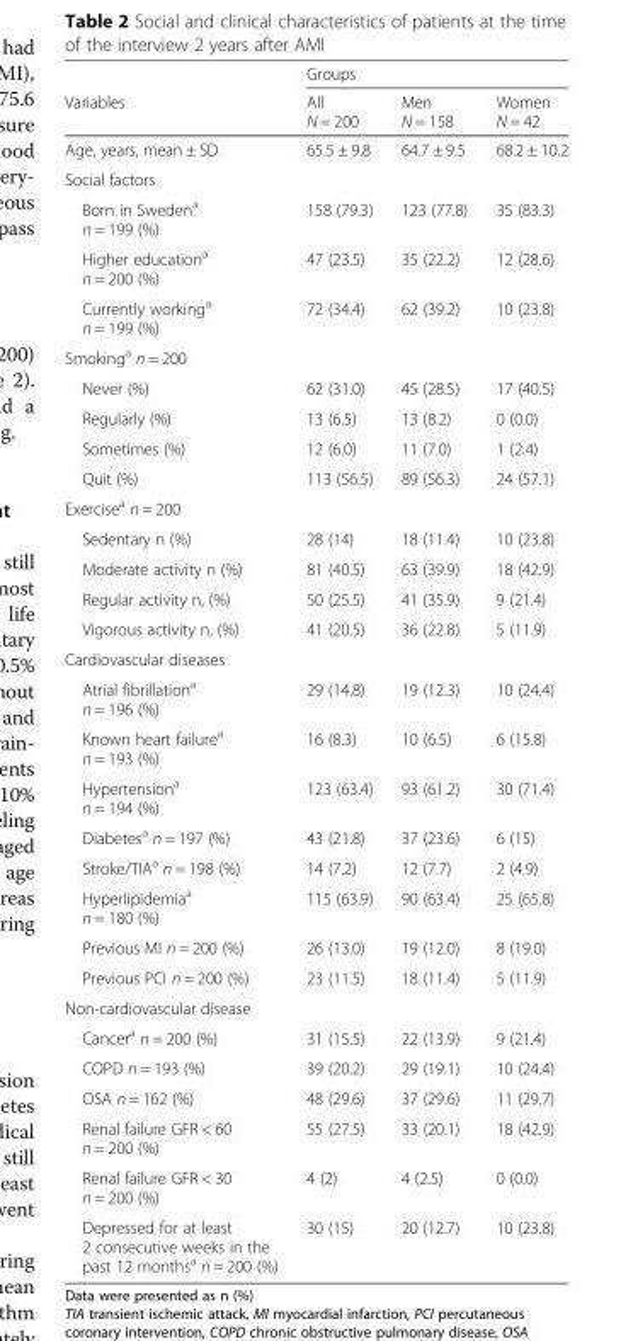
<table><thead><tr><td rowspan="2">Variables</td><td colspan="3">Groups</td></tr><tr><td>All N = 200</td><td>Men N = 158</td><td>Women N = 42</td></tr></thead><tbody><tr><td>Age, years, mean ± SD</td><td>65.5 ± 9.8</td><td>64.7 ± 9.5</td><td>68.2 ± 10.2</td></tr><tr><td colspan="4">Social factors</td></tr><tr><td>Born in Sweden<sup>a</sup> n = 199 (%)</td><td>158 (79.3)</td><td>123 (77.8)</td><td>35 (83.3)</td></tr><tr><td>Higher education<sup>a</sup> n = 200 (%)</td><td>47 (23.5)</td><td>35 (22.2)</td><td>12 (28.6)</td></tr><tr><td>Currently working<sup>a</sup> n = 199 (%)</td><td>72 (34.4)</td><td>62 (39.2)</td><td>10 (23.8)</td></tr><tr><td colspan="4">Smoking<sup>a</sup> n = 200</td></tr><tr><td>Never (%)</td><td>62 (31.0)</td><td>45 (28.5)</td><td>17 (40.5)</td></tr><tr><td>Regularly (%)</td><td>13 (6.5)</td><td>13 (8.2)</td><td>0 (0.0)</td></tr><tr><td>Sometimes (%)</td><td>12 (6.0)</td><td>11 (7.0)</td><td>1 (2.4)</td></tr><tr><td>Quit (%)</td><td>113 (56.5)</td><td>89 (56.3)</td><td>24 (57.1)</td></tr><tr><td colspan="4">Exercise<sup>a</sup> n = 200</td></tr><tr><td>Sedentary n (%)</td><td>28 (14)</td><td>18 (11.4)</td><td>10 (23.8)</td></tr><tr><td>Moderate activity n (%)</td><td>81 (40.5)</td><td>63 (39.9)</td><td>18 (42.9)</td></tr><tr><td>Regular activity n, (%)</td><td>50 (25.5)</td><td>41 (35.9)</td><td>9 (21.4)</td></tr><tr><td>Vigorous activity n, (%)</td><td>41 (20.5)</td><td>36 (22.8)</td><td>5 (11.9)</td></tr><tr><td colspan="4">Cardiovascular diseases</td></tr><tr><td>Atrial fibrillation<sup>a</sup> n = 196 (%)</td><td>29 (14.8)</td><td>19 (12.3)</td><td>10 (24.4)</td></tr><tr><td>Known heart failure<sup>a</sup> n = 193 (%)</td><td>16 (8.3)</td><td>10 (6.5)</td><td>6 (15.8)</td></tr><tr><td>Hypertension<sup>a</sup> n = 194 (%)</td><td>123 (63.4)</td><td>93 (61.2)</td><td>30 (71.4)</td></tr><tr><td>Diabetes<sup>a</sup> n = 197 (%)</td><td>43 (21.8)</td><td>37 (23.6)</td><td>6 (15)</td></tr><tr><td>Stroke/TIA<sup>a</sup> n = 198 (%)</td><td>14 (7.2)</td><td>12 (7.7)</td><td>2 (4.9)</td></tr><tr><td>Hyperlipidemia<sup>a</sup> n = 180 (%)</td><td>115 (63.9)</td><td>90 (63.4)</td><td>25 (65.8)</td></tr><tr><td>Previous MI n = 200 (%)</td><td>26 (13.0)</td><td>19 (12.0)</td><td>8 (19.0)</td></tr><tr><td>Previous PCI n = 200 (%)</td><td>23 (11.5)</td><td>18 (11.4)</td><td>5 (11.9)</td></tr><tr><td colspan="4">Non-cardiovascular disease</td></tr><tr><td>Cancer<sup>a</sup> n = 200 (%)</td><td>31 (15.5)</td><td>22 (13.9)</td><td>9 (21.4)</td></tr><tr><td>COPD n = 193 (%)</td><td>39 (20.2)</td><td>29 (19.1)</td><td>10 (24.4)</td></tr><tr><td>OSA n = 162 (%)</td><td>48 (29.6)</td><td>37 (29.6)</td><td>11 (29.7)</td></tr><tr><td>Renal failure GFR &lt; 60 n = 200 (%)</td><td>55 (27.5)</td><td>33 (20.1)</td><td>18 (42.9)</td></tr><tr><td>Renal failure GFR &lt; 30 n = 200 (%)</td><td>4 (2)</td><td>4 (2.5)</td><td>0 (0.0)</td></tr><tr><td>Depressed for at least 2 consecutive weeks in the past 12 months<sup>a</sup> n = 200 (%)</td><td>30 (15)</td><td>20 (12.7)</td><td>10 (23.8)</td></tr></tbody></table>